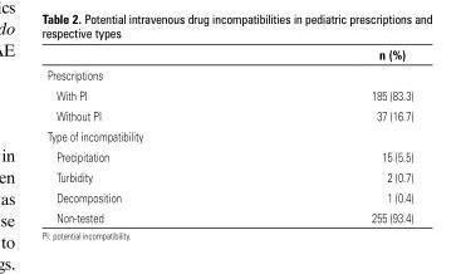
<table><thead><tr><td></td><td>n (%)</td></tr></thead><tbody><tr><td colspan="2">Prescriptions</td></tr><tr><td>With PI</td><td>185 (83.3)</td></tr><tr><td>Without PI</td><td>37 (16.7)</td></tr><tr><td colspan="2">Type of incompatibility</td></tr><tr><td>Precipitation</td><td>15 (5.5)</td></tr><tr><td>Turbidity</td><td>2 (0.7)</td></tr><tr><td>Decomposition</td><td>1 (0.4)</td></tr><tr><td>Non-tested</td><td>255 (93.4)</td></tr></tbody></table>